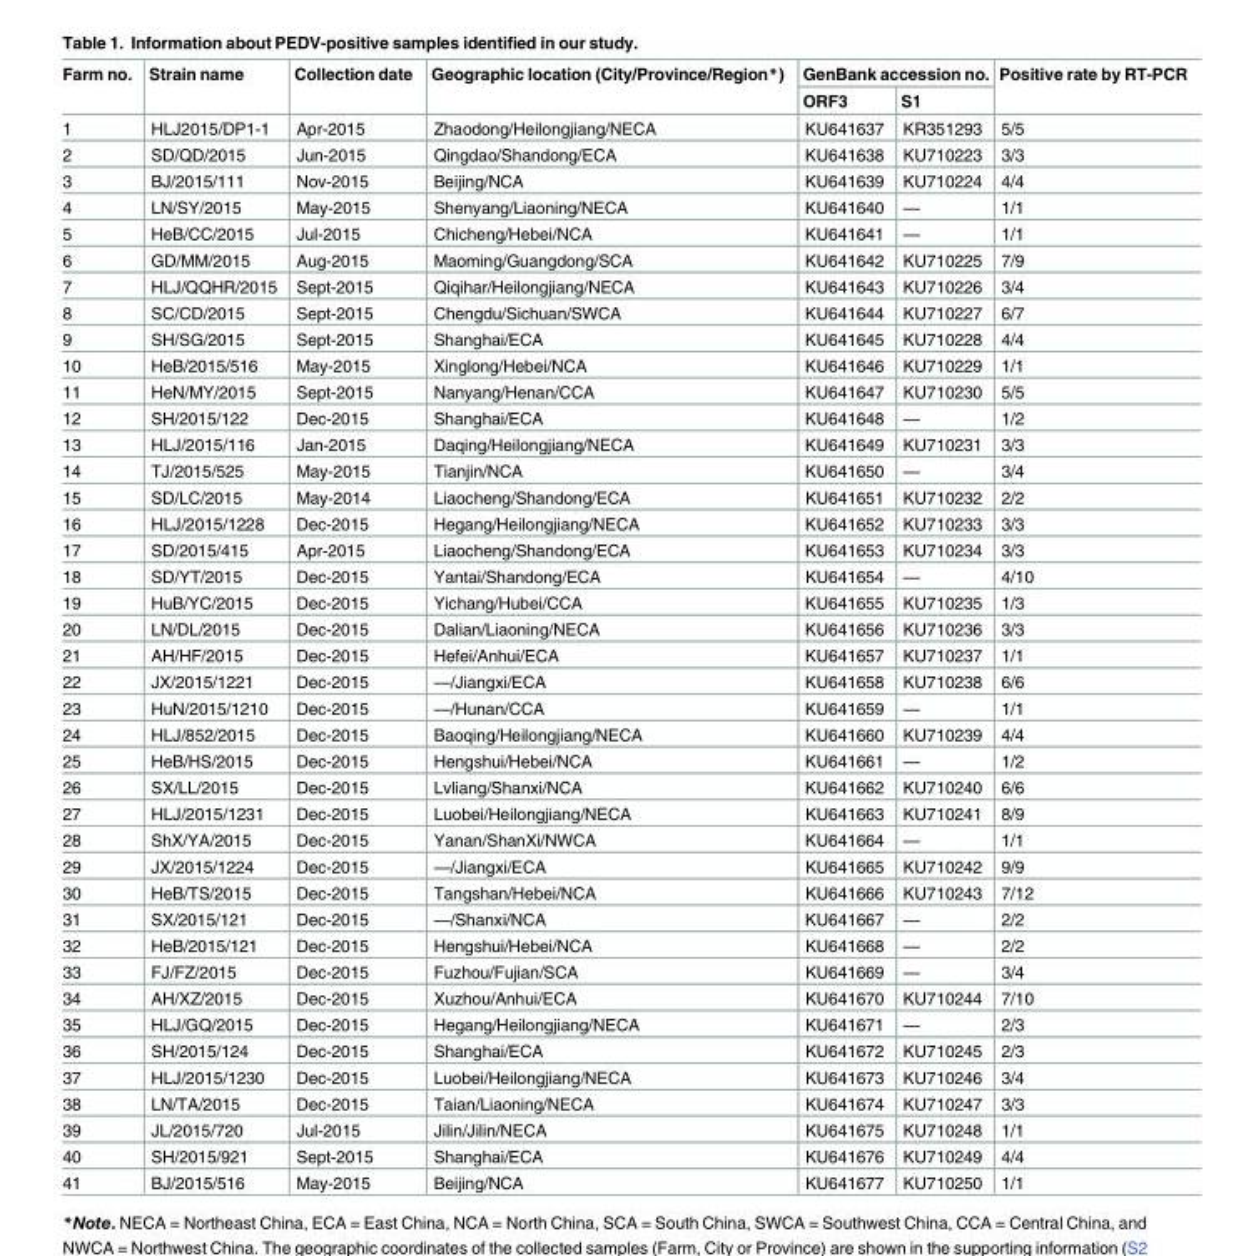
<table><thead><tr><td rowspan="2">Farm no.</td><td rowspan="2">Strain name</td><td rowspan="2">Collection date</td><td rowspan="2">Geographic location (City/Province/Region*)</td><td colspan="2">GenBank accession no.</td><td rowspan="2">Positive rate by RT-PCR</td></tr><tr><td>ORF3</td><td>S1</td></tr></thead><tbody><tr><td>1</td><td>HLJ2015/DP1-1</td><td>Apr-2015</td><td>Zhaodong/Heilongjiang/NECA</td><td>KU641637</td><td>KR351293</td><td>5/5</td></tr><tr><td>2</td><td>SD/QD/2015</td><td>Jun-2015</td><td>Qingdao/Shandong/ECA</td><td>KU641638</td><td>KU710223</td><td>3/3</td></tr><tr><td>3</td><td>BJ/2015/111</td><td>Nov-2015</td><td>Beijing/NCA</td><td>KU641639</td><td>KU710224</td><td>4/4</td></tr><tr><td>4</td><td>LN/SY/2015</td><td>May-2015</td><td>Shenyang/Liaoning/NECA</td><td>KU641640</td><td>—</td><td>1/1</td></tr><tr><td>5</td><td>HeB/CC/2015</td><td>Jul-2015</td><td>Chicheng/Hebei/NCA</td><td>KU641641</td><td>—</td><td>1/1</td></tr><tr><td>6</td><td>GD/MM/2015</td><td>Aug-2015</td><td>Maoming/Guangdong/SCA</td><td>KU641642</td><td>KU710225</td><td>7/9</td></tr><tr><td>7</td><td>HLJ/QQHR/2015</td><td>Sept-2015</td><td>Qiqihar/Heilongjiang/NECA</td><td>KU641643</td><td>KU710226</td><td>3/4</td></tr><tr><td>8</td><td>SC/CD/2015</td><td>Sept-2015</td><td>Chengdu/Sichuan/SWCA</td><td>KU641644</td><td>KU710227</td><td>6/7</td></tr><tr><td>9</td><td>SH/SG/2015</td><td>Sept-2015</td><td>Shanghai/ECA</td><td>KU641645</td><td>KU710228</td><td>4/4</td></tr><tr><td>10</td><td>HeB/2015/516</td><td>May-2015</td><td>Xinglong/Hebei/NCA</td><td>KU641646</td><td>KU710229</td><td>1/1</td></tr><tr><td>11</td><td>HeN/MY/2015</td><td>Sept-2015</td><td>Nanyang/Henan/CCA</td><td>KU641647</td><td>KU710230</td><td>5/5</td></tr><tr><td>12</td><td>SH/2015/122</td><td>Dec-2015</td><td>Shanghai/ECA</td><td>KU641648</td><td>—</td><td>1/2</td></tr><tr><td>13</td><td>HLJ/2015/116</td><td>Jan-2015</td><td>Daqing/Heilongjiang/NECA</td><td>KU641649</td><td>KU710231</td><td>3/3</td></tr><tr><td>14</td><td>TJ/2015/525</td><td>May-2015</td><td>Tianjin/NCA</td><td>KU641650</td><td>—</td><td>3/4</td></tr><tr><td>15</td><td>SD/LC/2015</td><td>May-2014</td><td>Liaocheng/Shandong/ECA</td><td>KU641651</td><td>KU710232</td><td>2/2</td></tr><tr><td>16</td><td>HLJ/2015/1228</td><td>Dec-2015</td><td>Hegang/Heilongjiang/NECA</td><td>KU641652</td><td>KU710233</td><td>3/3</td></tr><tr><td>17</td><td>SD/2015/415</td><td>Apr-2015</td><td>Liaocheng/Shandong/ECA</td><td>KU641653</td><td>KU710234</td><td>3/3</td></tr><tr><td>18</td><td>SD/YT/2015</td><td>Dec-2015</td><td>Yantai/Shandong/ECA</td><td>KU641654</td><td>—</td><td>4/10</td></tr><tr><td>19</td><td>HuB/YC/2015</td><td>Dec-2015</td><td>Yichang/Hubei/CCA</td><td>KU641655</td><td>KU710235</td><td>1/3</td></tr><tr><td>20</td><td>LN/DL/2015</td><td>Dec-2015</td><td>Dalian/Liaoning/NECA</td><td>KU641656</td><td>KU710236</td><td>3/3</td></tr><tr><td>21</td><td>AH/HF/2015</td><td>Dec-2015</td><td>Hefei/Anhui/ECA</td><td>KU641657</td><td>KU710237</td><td>1/1</td></tr><tr><td>22</td><td>JX/2015/1221</td><td>Dec-2015</td><td>—/Jiangxi/ECA</td><td>KU641658</td><td>KU710238</td><td>6/6</td></tr><tr><td>23</td><td>HuN/2015/1210</td><td>Dec-2015</td><td>—/Hunan/CCA</td><td>KU641659</td><td>—</td><td>1/1</td></tr><tr><td>24</td><td>HLJ/852/2015</td><td>Dec-2015</td><td>Baoqing/Heilongjiang/NECA</td><td>KU641660</td><td>KU710239</td><td>4/4</td></tr><tr><td>25</td><td>HeB/HS/2015</td><td>Dec-2015</td><td>Hengshui/Hebei/NCA</td><td>KU641661</td><td>—</td><td>1/2</td></tr><tr><td>26</td><td>SX/LL/2015</td><td>Dec-2015</td><td>Lvliang/Shanxi/NCA</td><td>KU641662</td><td>KU710240</td><td>6/6</td></tr><tr><td>27</td><td>HLJ/2015/1231</td><td>Dec-2015</td><td>Luobei/Heilongjiang/NECA</td><td>KU641663</td><td>KU710241</td><td>8/9</td></tr><tr><td>28</td><td>ShX/YA/2015</td><td>Dec-2015</td><td>Yanan/ShanXi/NWCA</td><td>KU641664</td><td>—</td><td>1/1</td></tr><tr><td>29</td><td>JX/2015/1224</td><td>Dec-2015</td><td>—/Jiangxi/ECA</td><td>KU641665</td><td>KU710242</td><td>9/9</td></tr><tr><td>30</td><td>HeB/TS/2015</td><td>Dec-2015</td><td>Tangshan/Hebei/NCA</td><td>KU641666</td><td>KU710243</td><td>7/12</td></tr><tr><td>31</td><td>SX/2015/121</td><td>Dec-2015</td><td>—/Shanxi/NCA</td><td>KU641667</td><td>—</td><td>2/2</td></tr><tr><td>32</td><td>HeB/2015/121</td><td>Dec-2015</td><td>Hengshui/Hebei/NCA</td><td>KU641668</td><td>—</td><td>2/2</td></tr><tr><td>33</td><td>FJ/FZ/2015</td><td>Dec-2015</td><td>Fuzhou/Fujian/SCA</td><td>KU641669</td><td>—</td><td>3/4</td></tr><tr><td>34</td><td>AH/XZ/2015</td><td>Dec-2015</td><td>Xuzhou/Anhui/ECA</td><td>KU641670</td><td>KU710244</td><td>7/10</td></tr><tr><td>35</td><td>HLJ/GQ/2015</td><td>Dec-2015</td><td>Hegang/Heilongjiang/NECA</td><td>KU641671</td><td>—</td><td>2/3</td></tr><tr><td>36</td><td>SH/2015/124</td><td>Dec-2015</td><td>Shanghai/ECA</td><td>KU641672</td><td>KU710245</td><td>2/3</td></tr><tr><td>37</td><td>HLJ/2015/1230</td><td>Dec-2015</td><td>Luobei/Heilongjiang/NECA</td><td>KU641673</td><td>KU710246</td><td>3/4</td></tr><tr><td>38</td><td>LN/TA/2015</td><td>Dec-2015</td><td>Taian/Liaoning/NECA</td><td>KU641674</td><td>KU710247</td><td>3/3</td></tr><tr><td>39</td><td>JL/2015/720</td><td>Jul-2015</td><td>Jilin/Jilin/NECA</td><td>KU641675</td><td>KU710248</td><td>1/1</td></tr><tr><td>40</td><td>SH/2015/921</td><td>Sept-2015</td><td>Shanghai/ECA</td><td>KU641676</td><td>KU710249</td><td>4/4</td></tr><tr><td>41</td><td>BJ/2015/516</td><td>May-2015</td><td>Beijing/NCA</td><td>KU641677</td><td>KU710250</td><td>1/1</td></tr></tbody></table>